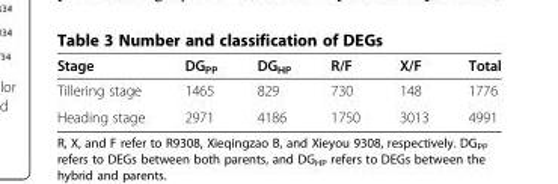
<table><thead><tr><td>Stage</td><td>DG<sub>PP</sub></td><td>DG<sub>HP</sub></td><td>R/F</td><td>X/F</td><td>Total</td></tr></thead><tbody><tr><td>Tillering stage</td><td>1465</td><td>829</td><td>730</td><td>148</td><td>1776</td></tr><tr><td>Heading stage</td><td>2971</td><td>4186</td><td>1750</td><td>3013</td><td>4991</td></tr></tbody></table>